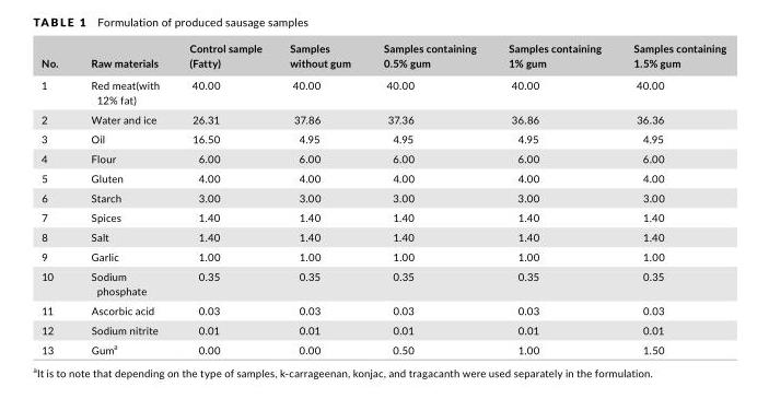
<table><thead><tr><td>No.</td><td>Raw materials</td><td>Control sample (Fatty)</td><td>Samples without gum</td><td>Samples containing 0.5% gum</td><td>Samples containing 1% gum</td><td>Samples containing 1.5% gum</td></tr></thead><tbody><tr><td>1</td><td>Red meat(with 12% fat)</td><td>40.00</td><td>40.00</td><td>40.00</td><td>40.00</td><td>40.00</td></tr><tr><td>2</td><td>Water and ice</td><td>26.31</td><td>37.86</td><td>37.36</td><td>36.86</td><td>36.36</td></tr><tr><td>3</td><td>Oil</td><td>16.50</td><td>4.95</td><td>4.95</td><td>4.95</td><td>4.95</td></tr><tr><td>4</td><td>Flour</td><td>6.00</td><td>6.00</td><td>6.00</td><td>6.00</td><td>6.00</td></tr><tr><td>5</td><td>Gluten</td><td>4.00</td><td>4.00</td><td>4.00</td><td>4.00</td><td>4.00</td></tr><tr><td>6</td><td>Starch</td><td>3.00</td><td>3.00</td><td>3.00</td><td>3.00</td><td>3.00</td></tr><tr><td>7</td><td>Spices</td><td>1.40</td><td>1.40</td><td>1.40</td><td>1.40</td><td>1.40</td></tr><tr><td>8</td><td>Salt</td><td>1.40</td><td>1.40</td><td>1.40</td><td>1.40</td><td>1.40</td></tr><tr><td>9</td><td>Garlic</td><td>1.00</td><td>1.00</td><td>1.00</td><td>1.00</td><td>1.00</td></tr><tr><td>10</td><td>Sodium phosphate</td><td>0.35</td><td>0.35</td><td>0.35</td><td>0.35</td><td>0.35</td></tr><tr><td>11</td><td>Ascorbic acid</td><td>0.03</td><td>0.03</td><td>0.03</td><td>0.03</td><td>0.03</td></tr><tr><td>12</td><td>Sodium nitrite</td><td>0.01</td><td>0.01</td><td>0.01</td><td>0.01</td><td>0.01</td></tr><tr><td>13</td><td>Gum<sup>a</sup></td><td>0.00</td><td>0.00</td><td>0.50</td><td>1.00</td><td>1.50</td></tr></tbody></table>